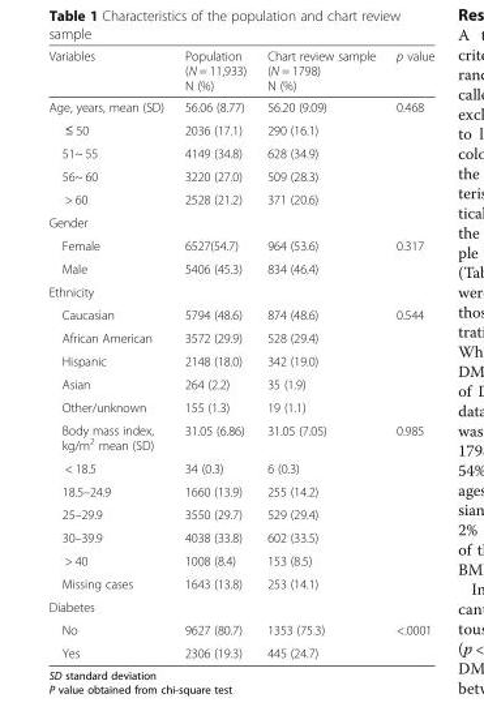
<table><thead><tr><td>Variables</td><td>Population (N = 11,933) N (%)</td><td>Chart review sample (N = 1798) N (%)</td><td>p value</td></tr></thead><tbody><tr><td>Age, years, mean (SD)</td><td>56.06 (8.77)</td><td>56.20 (9.09)</td><td>0.468</td></tr><tr><td>≤ 50</td><td>2036 (17.1)</td><td>290 (16.1)</td><td></td></tr><tr><td>51~ 55</td><td>4149 (34.8)</td><td>628 (34.9)</td><td></td></tr><tr><td>56~ 60</td><td>3220 (27.0)</td><td>509 (28.3)</td><td></td></tr><tr><td>&gt; 60</td><td>2528 (21.2)</td><td>371 (20.6)</td><td></td></tr><tr><td colspan="4">Gender</td></tr><tr><td>Female</td><td>6527(54.7)</td><td>964 (53.6)</td><td>0.317</td></tr><tr><td>Male</td><td>5406 (45.3)</td><td>834 (46.4)</td><td></td></tr><tr><td colspan="4">Ethnicity</td></tr><tr><td>Caucasian</td><td>5794 (48.6)</td><td>874 (48.6)</td><td>0.544</td></tr><tr><td>African American</td><td>3572 (29.9)</td><td>528 (29.4)</td><td></td></tr><tr><td>Hispanic</td><td>2148 (18.0)</td><td>342 (19.0)</td><td></td></tr><tr><td>Asian</td><td>264 (2.2)</td><td>35 (1.9)</td><td></td></tr><tr><td>Other/unknown</td><td>155 (1.3)</td><td>19 (1.1)</td><td></td></tr><tr><td>Body mass index, kg/m<sup>2</sup> mean (SD)</td><td>31.05 (6.86)</td><td>31.05 (7.05)</td><td>0.985</td></tr><tr><td>&lt; 18.5</td><td>34 (0.3)</td><td>6 (0.3)</td><td></td></tr><tr><td>18.5–24.9</td><td>1660 (13.9)</td><td>255 (14.2)</td><td></td></tr><tr><td>25–29.9</td><td>3550 (29.7)</td><td>529 (29.4)</td><td></td></tr><tr><td>30–39.9</td><td>4038 (33.8)</td><td>602 (33.5)</td><td></td></tr><tr><td>&gt; 40</td><td>1008 (8.4)</td><td>153 (8.5)</td><td></td></tr><tr><td>Missing cases</td><td>1643 (13.8)</td><td>253 (14.1)</td><td></td></tr><tr><td colspan="4">Diabetes</td></tr><tr><td>No</td><td>9627 (80.7)</td><td>1353 (75.3)</td><td>&lt;.0001</td></tr><tr><td>Yes</td><td>2306 (19.3)</td><td>445 (24.7)</td><td></td></tr></tbody></table>